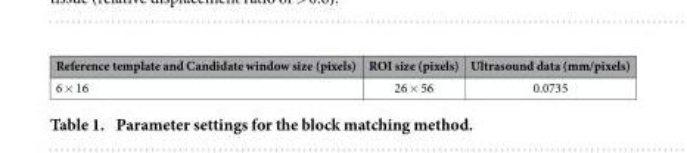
<table><thead><tr><td>Reference template and Candidate window size (pixels)</td><td>ROI size (pixels)</td><td>Ultrasound data (mm/pixels)</td></tr></thead><tbody><tr><td>6 × 16</td><td>26 × 56</td><td>0.0735</td></tr></tbody></table>